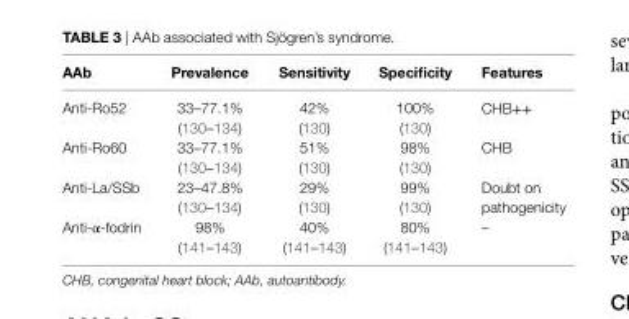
<table><thead><tr><td>AAb</td><td>Prevalence</td><td>Sensitivity</td><td>Specificity</td><td>Features</td></tr></thead><tbody><tr><td>Anti-Ro52</td><td>33–77.1% (130–134)</td><td>42% (130)</td><td>100% (130)</td><td>CHB++</td></tr><tr><td>Anti-Ro60</td><td>33–77.1% (130–134)</td><td>51% (130)</td><td>98% (130)</td><td>CHB</td></tr><tr><td>Anti-La/SSb</td><td>23–47.8% (130–134)</td><td>29% (130)</td><td>99% (130)</td><td>Doubt on pathogenicity</td></tr><tr><td>Anti-α-fodrin</td><td>98% (141–143)</td><td>40% (141–143)</td><td>80% (141–143)</td><td>–</td></tr></tbody></table>